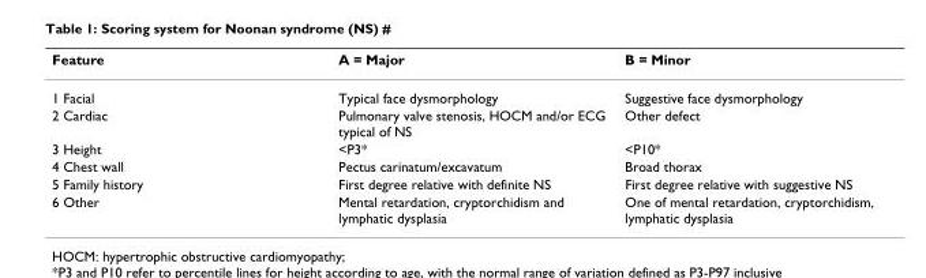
<table><thead><tr><td>Feature</td><td>A = Major</td><td>B = Minor</td></tr></thead><tbody><tr><td>1 Facial</td><td>Typical face dysmorphology</td><td>Suggestive face dysmorphology</td></tr><tr><td>2 Cardiac</td><td>Pulmonary valve stenosis, HOCM and/or ECG typical of NS</td><td>Other defect</td></tr><tr><td>3 Height</td><td>&lt;P3*</td><td>&lt;P10*</td></tr><tr><td>4 Chest wall</td><td>Pectus carinatum/excavatum</td><td>Broad thorax</td></tr><tr><td>5 Family history</td><td>First degree relative with definite NS</td><td>First degree relative with suggestive NS</td></tr><tr><td>6 Other</td><td>Mental retardation, cryptorchidism and lymphatic dysplasia</td><td>One of mental retardation, cryptorchidism, lymphatic dysplasia</td></tr></tbody></table>